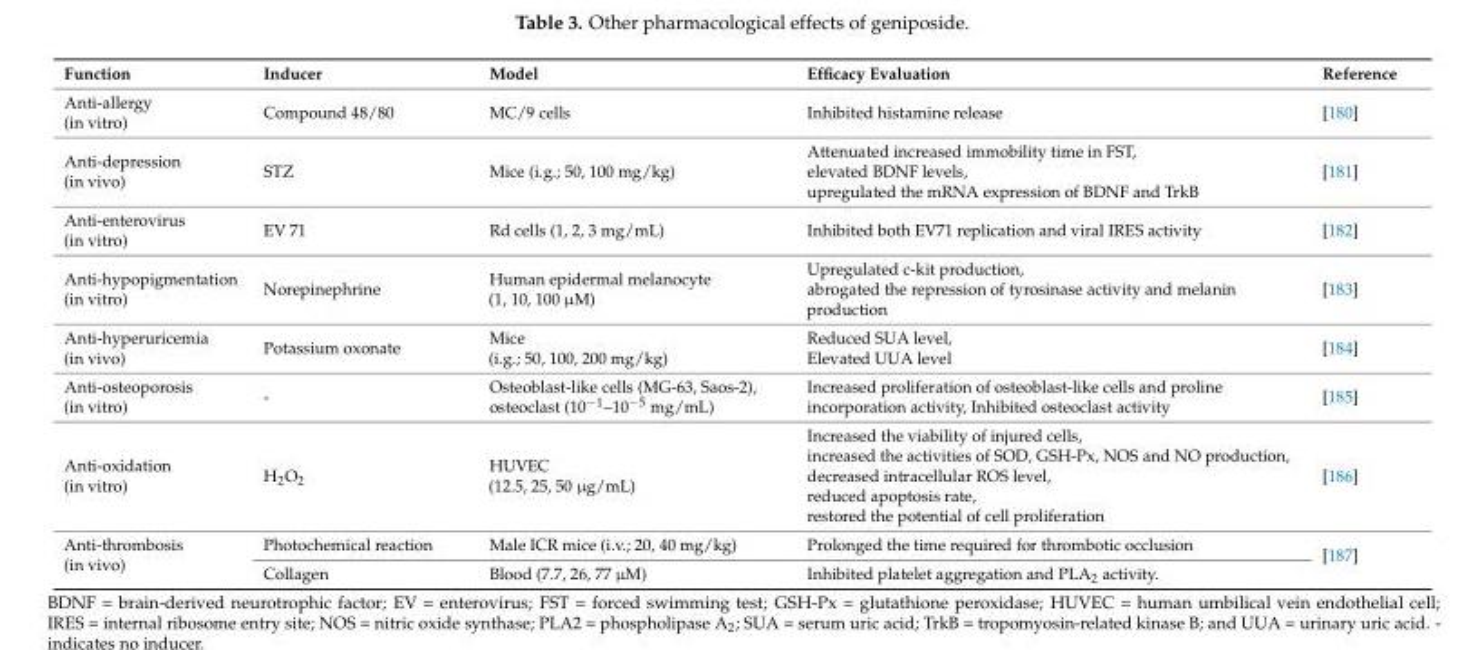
<table><thead><tr><td>Function</td><td>Inducer</td><td>Model</td><td>Efficacy Evaluation</td><td>Reference</td></tr></thead><tbody><tr><td>Anti-allergy (in vitro)</td><td>Compound 48/80</td><td>MC/9 cells</td><td>Inhibited histamine release</td><td>[180]</td></tr><tr><td>Anti-depression (in vivo)</td><td>STZ</td><td>Mice (i.g.; 50, 100 mg/kg)</td><td>Attenuated increased immobility time in FST, elevated BDNF levels, upregulated the mRNA expression of BDNF and TrkB</td><td>[181]</td></tr><tr><td>Anti-enterovirus (in vitro)</td><td>EV 71</td><td>Rd cells (1, 2, 3 mg/mL)</td><td>Inhibited both EV71 replication and viral IRES activity</td><td>[182]</td></tr><tr><td>Anti-hypopigmentation (in vitro)</td><td>Norepinephrine</td><td>Human epidermal melanocyte (1, 10, 100 µM)</td><td>Upregulated c-kit production, abrogated the repression of tyrosinase activity and melanin production</td><td>[183]</td></tr><tr><td>Anti-hyperuricemia (in vivo)</td><td>Potassium oxonate</td><td>Mice (i.g.; 50, 100, 200 mg/kg)</td><td>Reduced SUA level, Elevated UUA level</td><td>[184]</td></tr><tr><td>Anti-osteoporosis (in vitro)</td><td>-</td><td>Osteoblast-like cells (MG-63, Saos-2), osteoclast (10<sup>−1</sup>–10<sup>−5</sup> mg/mL)</td><td>Increased proliferation of osteoblast-like cells and proline incorporation activity, Inhibited osteoclast activity</td><td>[185]</td></tr><tr><td>Anti-oxidation (in vitro)</td><td>H<sub>2</sub>O<sub>2</sub></td><td>HUVEC (12.5, 25, 50 µg/mL)</td><td>Increased the viability of injured cells, increased the activities of SOD, GSH-Px, NOS and NO production, decreased intracellular ROS level, reduced apoptosis rate, restored the potential of cell proliferation</td><td>[186]</td></tr><tr><td rowspan="2">Anti-thrombosis (in vivo)</td><td>Photochemical reaction</td><td>Male ICR mice (i.v.; 20, 40 mg/kg)</td><td>Prolonged the time required for thrombotic occlusion</td><td rowspan="2">[187]</td></tr><tr><td>Collagen</td><td>Blood (7.7, 26, 77 µM)</td><td>Inhibited platelet aggregation and PLA<sub>2</sub> activity.</td></tr></tbody></table>